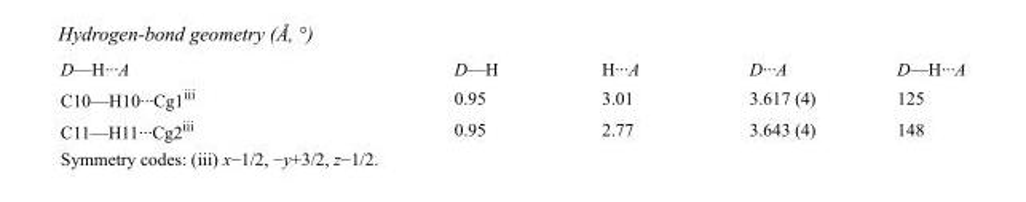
<table><tbody><tr><td>D—H···A</td><td>D—H</td><td>H···A</td><td>D···A</td><td>D—H···A</td></tr><tr><td>C10—H10···Cg1<sup>iii</sup></td><td>0.95</td><td>3.01</td><td>3.617 (4)</td><td>125</td></tr><tr><td>C11—H11···Cg2<sup>iii</sup></td><td>0.95</td><td>2.77</td><td>3.643 (4)</td><td>148</td></tr></tbody></table>